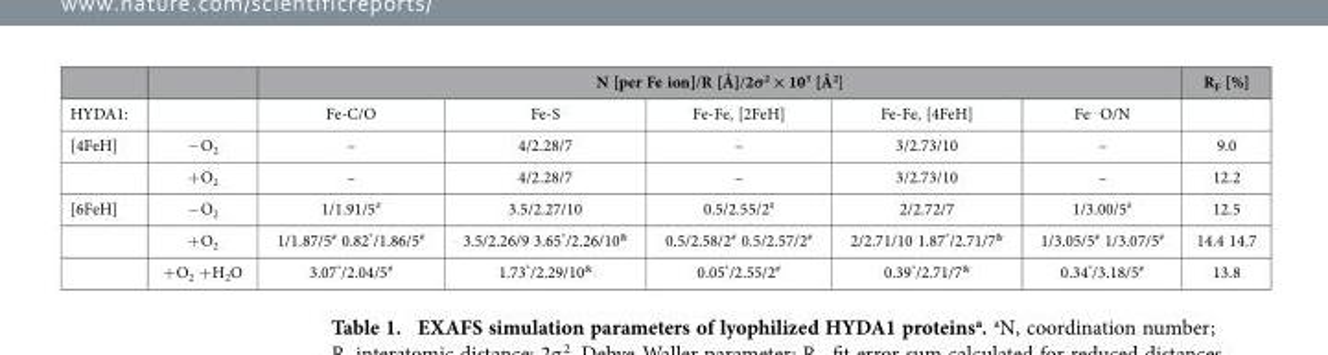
<table><thead><tr><td rowspan="2">HYDA1:</td><td rowspan="2"></td><td colspan="5">N [per Fe ion]/R [Å]/2σ<sup>2</sup> × 10<sup>3</sup> [Å<sup>2</sup>]</td><td rowspan="2">R<sub>F</sub> [%]</td></tr><tr><td>Fe-C/O</td><td>Fe-S</td><td>Fe-Fe, [2FeH]</td><td>Fe-Fe, [4FeH]</td><td>Fe<sup>…</sup>O/N</td></tr></thead><tbody><tr><td rowspan="2">[4FeH]</td><td>− O<sub>2</sub></td><td>–</td><td>4/2.28/7</td><td>–</td><td>3/2.73/10</td><td>–</td><td>9.0</td></tr><tr><td>+ O<sub>2</sub></td><td>–</td><td>4/2.28/7</td><td>–</td><td>3/2.73/10</td><td>–</td><td>12.2</td></tr><tr><td rowspan="3">[6FeH]</td><td>− O<sub>2</sub></td><td>1/1.91/5<sup>#</sup></td><td>3.5/2.27/10</td><td>0.5/2.55/2<sup>#</sup></td><td>2/2.72/7</td><td>1/3.00/5<sup>#</sup></td><td>12.5</td></tr><tr><td>+ O<sub>2</sub></td><td>1/1.87/5<sup>#</sup> 0.82*/1.86/5<sup>#</sup></td><td>3.5/2.26/9 3.65*/2.26/10<sup>&amp;</sup></td><td>0.5/2.58/2<sup>#</sup> 0.5/2.57/2<sup>#</sup></td><td>2/2.71/10 1.87*/2.71/7<sup>&amp;</sup></td><td>1/3.05/5<sup>#</sup> 1/3.07/5<sup>#</sup></td><td>14.4 14.7</td></tr><tr><td>+ O<sub>2</sub> + H<sub>2</sub>O</td><td>3.07*/2.04/5<sup>#</sup></td><td>1.73*/2.29/10<sup>&amp;</sup></td><td>0.05*/2.55/2<sup>#</sup></td><td>0.39*/2.71/7<sup>&amp;</sup></td><td>0.34*/3.18/5<sup>#</sup></td><td>13.8</td></tr></tbody></table>